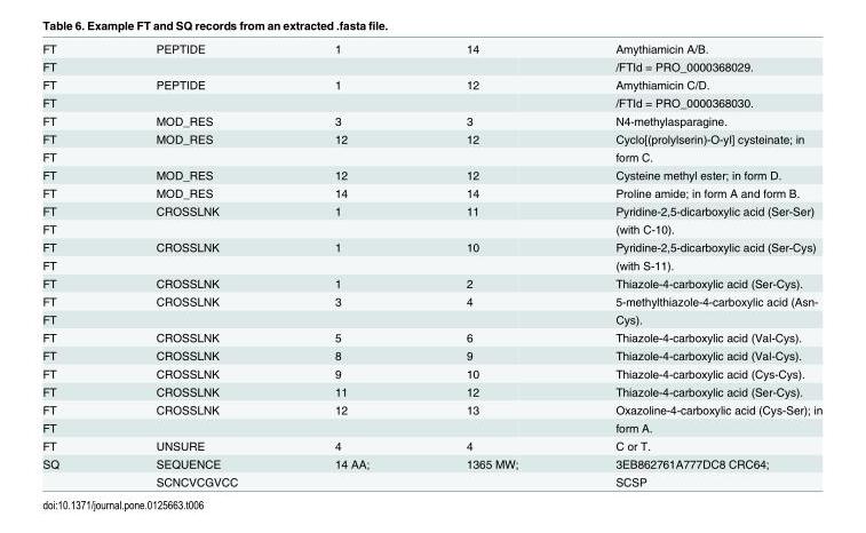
<table><tbody><tr><td>FT</td><td>PEPTIDE</td><td>1</td><td>14</td><td>Amythiamicin A/B.</td></tr><tr><td>FT</td><td></td><td></td><td></td><td>/FTId = PRO_0000368029.</td></tr><tr><td>FT</td><td>PEPTIDE</td><td>1</td><td>12</td><td>Amythiamicin C/D.</td></tr><tr><td>FT</td><td></td><td></td><td></td><td>/FTId = PRO_0000368030.</td></tr><tr><td>FT</td><td>MOD_RES</td><td>3</td><td>3</td><td>N4-methylasparagine.</td></tr><tr><td>FT</td><td>MOD_RES</td><td>12</td><td>12</td><td>Cyclo[(prolylserin)-O-yl] cysteinate; in</td></tr><tr><td>FT</td><td></td><td></td><td></td><td>form C.</td></tr><tr><td>FT</td><td>MOD_RES</td><td>12</td><td>12</td><td>Cysteine methyl ester; in form D.</td></tr><tr><td>FT</td><td>MOD_RES</td><td>14</td><td>14</td><td>Proline amide; in form A and form B.</td></tr><tr><td>FT</td><td>CROSSLNK</td><td>1</td><td>11</td><td>Pyridine-2,5-dicarboxylic acid (Ser-Ser)</td></tr><tr><td>FT</td><td></td><td></td><td></td><td>(with C-10).</td></tr><tr><td>FT</td><td>CROSSLNK</td><td>1</td><td>10</td><td>Pyridine-2,5-dicarboxylic acid (Ser-Cys)</td></tr><tr><td>FT</td><td></td><td></td><td></td><td>(with S-11).</td></tr><tr><td>FT</td><td>CROSSLNK</td><td>1</td><td>2</td><td>Thiazole-4-carboxylic acid (Ser-Cys).</td></tr><tr><td>FT</td><td>CROSSLNK</td><td>3</td><td>4</td><td>5-methylthiazole-4-carboxylic acid (Asn-</td></tr><tr><td>FT</td><td></td><td></td><td></td><td>Cys).</td></tr><tr><td>FT</td><td>CROSSLNK</td><td>5</td><td>6</td><td>Thiazole-4-carboxylic acid (Val-Cys).</td></tr><tr><td>FT</td><td>CROSSLNK</td><td>8</td><td>9</td><td>Thiazole-4-carboxylic acid (Val-Cys).</td></tr><tr><td>FT</td><td>CROSSLNK</td><td>9</td><td>10</td><td>Thiazole-4-carboxylic acid (Cys-Cys).</td></tr><tr><td>FT</td><td>CROSSLNK</td><td>11</td><td>12</td><td>Thiazole-4-carboxylic acid (Ser-Cys).</td></tr><tr><td>FT</td><td>CROSSLNK</td><td>12</td><td>13</td><td>Oxazoline-4-carboxylic acid (Cys-Ser); in</td></tr><tr><td>FT</td><td></td><td></td><td></td><td>form A.</td></tr><tr><td>FT</td><td>UNSURE</td><td>4</td><td>4</td><td>C or T.</td></tr><tr><td rowspan="2">SQ</td><td>SEQUENCE</td><td>14 AA;</td><td>1365 MW;</td><td>3EB862761A777DC8 CRC64;</td></tr><tr><td>SCNCVCGVCC</td><td></td><td></td><td>SCSP</td></tr></tbody></table>